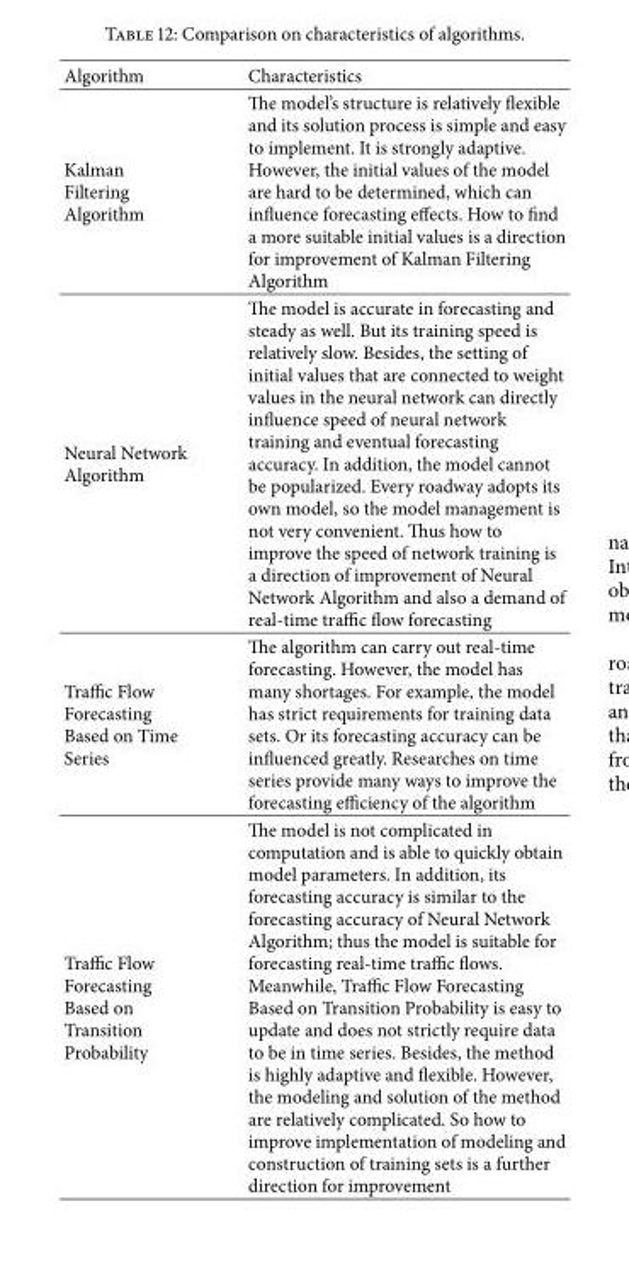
<table><thead><tr><td>Algorithm</td><td>Characteristics</td></tr></thead><tbody><tr><td>Kalman Filtering Algorithm</td><td>The model’s structure is relatively flexible and its solution process is simple and easy to implement. It is strongly adaptive. However, the initial values of the model are hard to be determined, which can influence forecasting effects. How to find a more suitable initial values is a direction for improvement of Kalman Filtering Algorithm</td></tr><tr><td>Neural Network Algorithm</td><td>The model is accurate in forecasting and steady as well. But its training speed is relatively slow. Besides, the setting of initial values that are connected to weight values in the neural network can directly influence speed of neural network training and eventual forecasting accuracy. In addition, the model cannot be popularized. Every roadway adopts its own model, so the model management is not very convenient. Thus how to improve the speed of network training is a direction of improvement of Neural Network Algorithm and also a demand of real-time traffic flow forecasting</td></tr><tr><td>Traffic Flow Forecasting Based on Time Series</td><td>The algorithm can carry out real-time forecasting. However, the model has many shortages. For example, the model has strict requirements for training data sets. Or its forecasting accuracy can be influenced greatly. Researches on time series provide many ways to improve the forecasting efficiency of the algorithm</td></tr><tr><td>Traffic Flow Forecasting Based on Transition Probability</td><td>The model is not complicated in computation and is able to quickly obtain model parameters. In addition, its forecasting accuracy is similar to the forecasting accuracy of Neural Network Algorithm; thus the model is suitable for forecasting real-time traffic flows. Meanwhile, Traffic Flow Forecasting Based on Transition Probability is easy to update and does not strictly require data to be in time series. Besides, the method is highly adaptive and flexible. However, the modeling and solution of the method are relatively complicated. So how to improve implementation of modeling and construction of training sets is a further direction for improvement</td></tr></tbody></table>